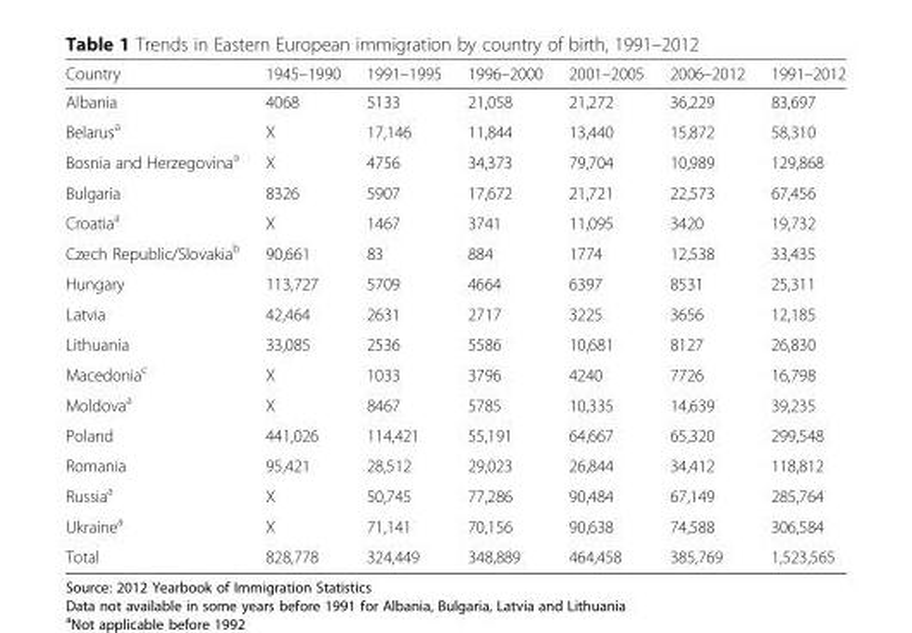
<table><thead><tr><td>Country</td><td>1945–1990</td><td>1991–1995</td><td>1996–2000</td><td>2001–2005</td><td>2006–2012</td><td>1991–2012</td></tr></thead><tbody><tr><td>Albania</td><td>4068</td><td>5133</td><td>21,058</td><td>21,272</td><td>36,229</td><td>83,697</td></tr><tr><td>Belarus<sup>a</sup></td><td>X</td><td>17,146</td><td>11,844</td><td>13,440</td><td>15,872</td><td>58,310</td></tr><tr><td>Bosnia and Herzegovina<sup>a</sup></td><td>X</td><td>4756</td><td>34,373</td><td>79,704</td><td>10,989</td><td>129,868</td></tr><tr><td>Bulgaria</td><td>8326</td><td>5907</td><td>17,672</td><td>21,721</td><td>22,573</td><td>67,456</td></tr><tr><td>Croatia<sup>a</sup></td><td>X</td><td>1467</td><td>3741</td><td>11,095</td><td>3420</td><td>19,732</td></tr><tr><td>Czech Republic/Slovakia<sup>b</sup></td><td>90,661</td><td>83</td><td>884</td><td>1774</td><td>12,538</td><td>33,435</td></tr><tr><td>Hungary</td><td>113,727</td><td>5709</td><td>4664</td><td>6397</td><td>8531</td><td>25,311</td></tr><tr><td>Latvia</td><td>42,464</td><td>2631</td><td>2717</td><td>3225</td><td>3656</td><td>12,185</td></tr><tr><td>Lithuania</td><td>33,085</td><td>2536</td><td>5586</td><td>10,681</td><td>8127</td><td>26,830</td></tr><tr><td>Macedonia<sup>c</sup></td><td>X</td><td>1033</td><td>3796</td><td>4240</td><td>7726</td><td>16,798</td></tr><tr><td>Moldova<sup>a</sup></td><td>X</td><td>8467</td><td>5785</td><td>10,335</td><td>14,639</td><td>39,235</td></tr><tr><td>Poland</td><td>441,026</td><td>114,421</td><td>55,191</td><td>64,667</td><td>65,320</td><td>299,548</td></tr><tr><td>Romania</td><td>95,421</td><td>28,512</td><td>29,023</td><td>26,844</td><td>34,412</td><td>118,812</td></tr><tr><td>Russia<sup>a</sup></td><td>X</td><td>50,745</td><td>77,286</td><td>90,484</td><td>67,149</td><td>285,764</td></tr><tr><td>Ukraine<sup>a</sup></td><td>X</td><td>71,141</td><td>70,156</td><td>90,638</td><td>74,588</td><td>306,584</td></tr><tr><td>Total</td><td>828,778</td><td>324,449</td><td>348,889</td><td>464,458</td><td>385,769</td><td>1,523,565</td></tr></tbody></table>